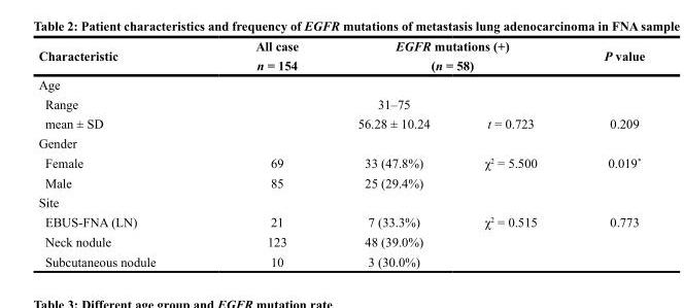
<table><thead><tr><td rowspan="3">Characteristic Age</td><td rowspan="3">All case n = 154</td><td rowspan="2" colspan="2">EGFR mutations (+) (n = 58)</td><td rowspan="3">P value</td></tr><tr></tr><tr><td></td><td></td></tr></thead><tbody><tr><td>Range</td><td></td><td>31–75</td><td></td><td></td></tr><tr><td>mean ± SD</td><td></td><td>56.28 ± 10.24</td><td>t = 0.723</td><td>0.209</td></tr><tr><td colspan="5">Gender</td></tr><tr><td>Female</td><td>69</td><td>33 (47.8%)</td><td>χ<sup>2</sup> = 5.500</td><td>0.019*</td></tr><tr><td>Male</td><td>85</td><td>25 (29.4%)</td><td></td><td></td></tr><tr><td colspan="5">Site</td></tr><tr><td>EBUS-FNA (LN)</td><td>21</td><td>7 (33.3%)</td><td>χ<sup>2</sup> = 0.515</td><td>0.773</td></tr><tr><td>Neck nodule</td><td>123</td><td>48 (39.0%)</td><td></td><td></td></tr><tr><td>Subcutaneous nodule</td><td>10</td><td>3 (30.0%)</td><td></td><td></td></tr></tbody></table>